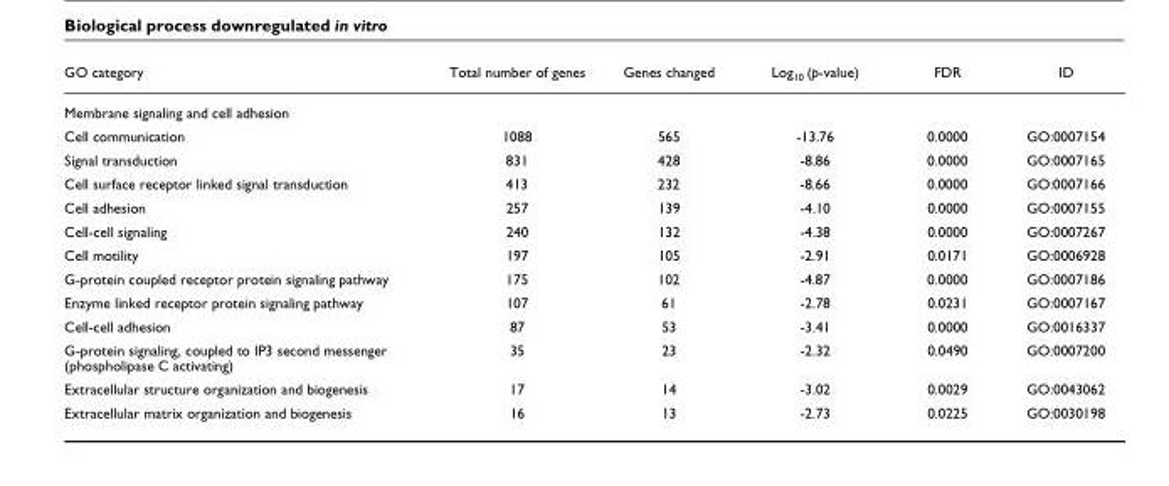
<table><thead><tr><td>GO category</td><td>Total number of genes</td><td>Genes changed</td><td>Log10 (p-value)</td><td>FDR</td><td>ID</td></tr></thead><tbody><tr><td colspan="6">Membrane signaling and cell adhesion</td></tr><tr><td>Cell communication</td><td>1088</td><td>565</td><td>-13.76</td><td>0.0000</td><td>GO:0007154</td></tr><tr><td>Signal transduction</td><td>831</td><td>428</td><td>-8.86</td><td>0.0000</td><td>GO:0007165</td></tr><tr><td>Cell surface receptor linked signal transduction</td><td>413</td><td>232</td><td>-8.66</td><td>0.0000</td><td>GO:0007166</td></tr><tr><td>Cell adhesion</td><td>257</td><td>139</td><td>-4.10</td><td>0.0000</td><td>GO:0007155</td></tr><tr><td>Cell-cell signaling</td><td>240</td><td>132</td><td>-4.38</td><td>0.0000</td><td>GO:0007267</td></tr><tr><td>Cell motility</td><td>197</td><td>105</td><td>-2.91</td><td>0.0171</td><td>GO:0006928</td></tr><tr><td>G-protein coupled receptor protein signaling pathway</td><td>175</td><td>102</td><td>-4.87</td><td>0.0000</td><td>GO:0007186</td></tr><tr><td>Enzyme linked receptor protein signaling pathway</td><td>107</td><td>61</td><td>-2.78</td><td>0.0231</td><td>GO:0007167</td></tr><tr><td>Cell-cell adhesion</td><td>87</td><td>53</td><td>-3.41</td><td>0.0000</td><td>GO:0016337</td></tr><tr><td>G-protein signaling, coupled to IP3 second messenger (phospholipase C activating)</td><td>35</td><td>23</td><td>-2.32</td><td>0.0490</td><td>GO:0007200</td></tr><tr><td>Extracellular structure organization and biogenesis</td><td>17</td><td>14</td><td>-3.02</td><td>0.0029</td><td>GO:0043062</td></tr><tr><td>Extracellular matrix organization and biogenesis</td><td>16</td><td>13</td><td>-2.73</td><td>0.0225</td><td>GO:0030198</td></tr></tbody></table>